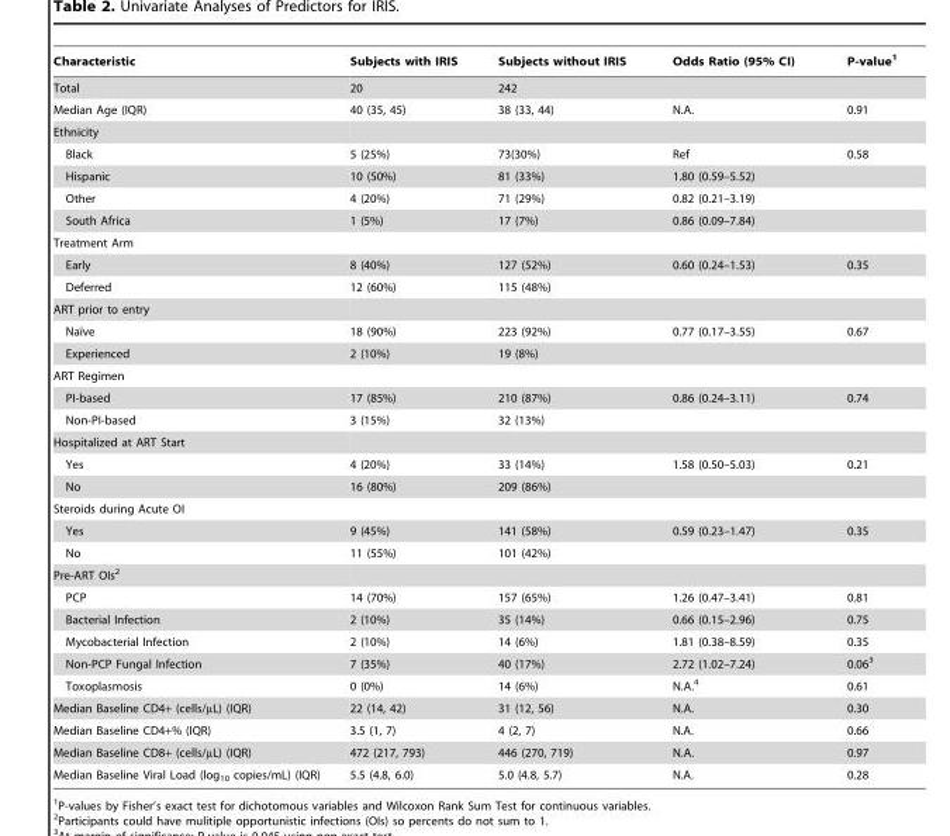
<table><thead><tr><td>Characteristic</td><td>Subjects with IRIS</td><td>Subjects without IRIS</td><td>Odds Ratio (95% CI)</td><td>P-value<sup>1</sup></td></tr></thead><tbody><tr><td>Total</td><td>20</td><td>242</td><td></td><td></td></tr><tr><td>Median Age (IQR)</td><td>40 (35, 45)</td><td>38 (33, 44)</td><td>N.A.</td><td>0.91</td></tr><tr><td colspan="5">Ethnicity</td></tr><tr><td>Black</td><td>5 (25%)</td><td>73(30%)</td><td>Ref</td><td>0.58</td></tr><tr><td>Hispanic</td><td>10 (50%)</td><td>81 (33%)</td><td>1.80 (0.59–5.52)</td><td></td></tr><tr><td>Other</td><td>4 (20%)</td><td>71 (29%)</td><td>0.82 (0.21–3.19)</td><td></td></tr><tr><td>South Africa</td><td>1 (5%)</td><td>17 (7%)</td><td>0.86 (0.09–7.84)</td><td></td></tr><tr><td colspan="5">Treatment Arm</td></tr><tr><td>Early</td><td>8 (40%)</td><td>127 (52%)</td><td>0.60 (0.24–1.53)</td><td>0.35</td></tr><tr><td>Deferred</td><td>12 (60%)</td><td>115 (48%)</td><td></td><td></td></tr><tr><td colspan="5">ART prior to entry</td></tr><tr><td>Naı¨ve</td><td>18 (90%)</td><td>223 (92%)</td><td>0.77 (0.17–3.55)</td><td>0.67</td></tr><tr><td>Experienced</td><td>2 (10%)</td><td>19 (8%)</td><td></td><td></td></tr><tr><td colspan="5">ART Regimen</td></tr><tr><td>PI-based</td><td>17 (85%)</td><td>210 (87%)</td><td>0.86 (0.24–3.11)</td><td>0.74</td></tr><tr><td>Non-PI-based</td><td>3 (15%)</td><td>32 (13%)</td><td></td><td></td></tr><tr><td colspan="5">Hospitalized at ART Start</td></tr><tr><td>Yes</td><td>4 (20%)</td><td>33 (14%)</td><td>1.58 (0.50–5.03)</td><td>0.21</td></tr><tr><td>No</td><td>16 (80%)</td><td>209 (86%)</td><td></td><td></td></tr><tr><td colspan="5">Steroids during Acute OI</td></tr><tr><td>Yes</td><td>9 (45%)</td><td>141 (58%)</td><td>0.59 (0.23–1.47)</td><td>0.35</td></tr><tr><td>No</td><td>11 (55%)</td><td>101 (42%)</td><td></td><td></td></tr><tr><td colspan="5">Pre-ART OIs<sup>2</sup></td></tr><tr><td>PCP</td><td>14 (70%)</td><td>157 (65%)</td><td>1.26 (0.47–3.41)</td><td>0.81</td></tr><tr><td>Bacterial Infection</td><td>2 (10%)</td><td>35 (14%)</td><td>0.66 (0.15–2.96)</td><td>0.75</td></tr><tr><td>Mycobacterial Infection</td><td>2 (10%)</td><td>14 (6%)</td><td>1.81 (0.38–8.59)</td><td>0.35</td></tr><tr><td>Non-PCP Fungal Infection</td><td>7 (35%)</td><td>40 (17%)</td><td>2.72 (1.02–7.24)</td><td>0.06<sup>3</sup></td></tr><tr><td>Toxoplasmosis</td><td>0 (0%)</td><td>14 (6%)</td><td>N.A.<sup>4</sup></td><td>0.61</td></tr><tr><td>Median Baseline CD4+ (cells/µL) (IQR)</td><td>22 (14, 42)</td><td>31 (12, 56)</td><td>N.A.</td><td>0.30</td></tr><tr><td>Median Baseline CD4+% (IQR)</td><td>3.5 (1, 7)</td><td>4 (2, 7)</td><td>N.A.</td><td>0.66</td></tr><tr><td>Median Baseline CD8+ (cells/µL) (IQR)</td><td>472 (217, 793)</td><td>446 (270, 719)</td><td>N.A.</td><td>0.97</td></tr><tr><td>Median Baseline Viral Load (log<sub>10</sub> copies/mL) (IQR)</td><td>5.5 (4.8, 6.0)</td><td>5.0 (4.8, 5.7)</td><td>N.A.</td><td>0.28</td></tr></tbody></table>